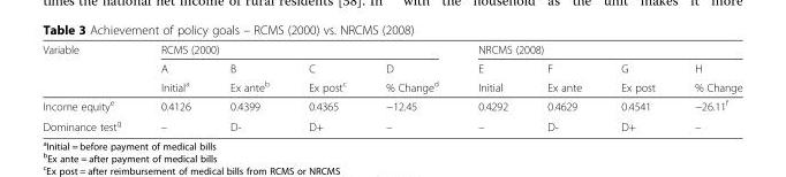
<table><thead><tr><td rowspan="3">Variable</td><td colspan="4">RCMS (2000)</td><td colspan="4">NRCMS (2008)</td></tr><tr><td rowspan="2">A Initial<sup>a</sup></td><td rowspan="2">B Ex ante<sup>b</sup></td><td rowspan="2">C Ex post<sup>c</sup></td><td rowspan="2">D % Change<sup>d</sup></td><td rowspan="2">E Initial</td><td rowspan="2">F Ex ante</td><td rowspan="2">G Ex post</td><td rowspan="2">H % Change</td></tr><tr></tr></thead><tbody><tr><td>Income equity<sup>e</sup></td><td>0.4126</td><td>0.4399</td><td>0.4365</td><td>−12.45</td><td>0.4292</td><td>0.4629</td><td>0.4541</td><td>−26.11<sup>f</sup></td></tr><tr><td>Dominance test<sup>g</sup></td><td>–</td><td>D-</td><td>D+</td><td>–</td><td>–</td><td>D-</td><td>D+</td><td>–</td></tr></tbody></table>